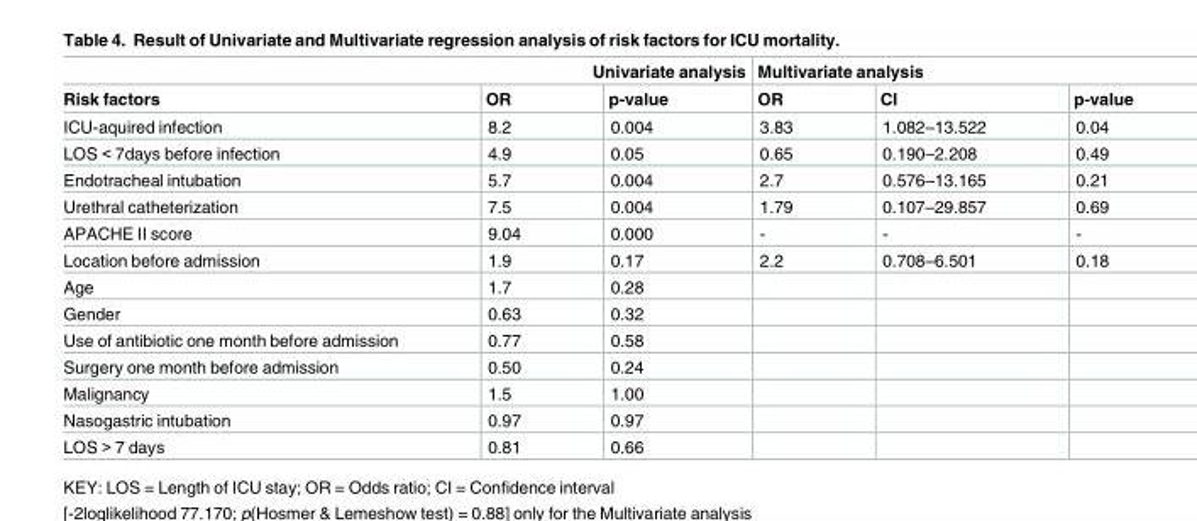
<table><thead><tr><td colspan="3">Univariate analysis</td><td colspan="3">Multivariate analysis</td></tr><tr><td>Risk factors</td><td>OR</td><td>p-value</td><td>OR</td><td>CI</td><td>p-value</td></tr></thead><tbody><tr><td>ICU-aquired infection</td><td>8.2</td><td>0.004</td><td>3.83</td><td>1.082–13.522</td><td>0.04</td></tr><tr><td>LOS &lt; 7days before infection</td><td>4.9</td><td>0.05</td><td>0.65</td><td>0.190–2.208</td><td>0.49</td></tr><tr><td>Endotracheal intubation</td><td>5.7</td><td>0.004</td><td>2.7</td><td>0.576–13.165</td><td>0.21</td></tr><tr><td>Urethral catheterization</td><td>7.5</td><td>0.004</td><td>1.79</td><td>0.107–29.857</td><td>0.69</td></tr><tr><td>APACHE II score</td><td>9.04</td><td>0.000</td><td>-</td><td>-</td><td>-</td></tr><tr><td>Location before admission</td><td>1.9</td><td>0.17</td><td>2.2</td><td>0.708–6.501</td><td>0.18</td></tr><tr><td>Age</td><td>1.7</td><td>0.28</td><td></td><td></td><td></td></tr><tr><td>Gender</td><td>0.63</td><td>0.32</td><td></td><td></td><td></td></tr><tr><td>Use of antibiotic one month before admission</td><td>0.77</td><td>0.58</td><td></td><td></td><td></td></tr><tr><td>Surgery one month before admission</td><td>0.50</td><td>0.24</td><td></td><td></td><td></td></tr><tr><td>Malignancy</td><td>1.5</td><td>1.00</td><td></td><td></td><td></td></tr><tr><td>Nasogastric intubation</td><td>0.97</td><td>0.97</td><td></td><td></td><td></td></tr><tr><td>LOS &gt; 7 days</td><td>0.81</td><td>0.66</td><td></td><td></td><td></td></tr></tbody></table>